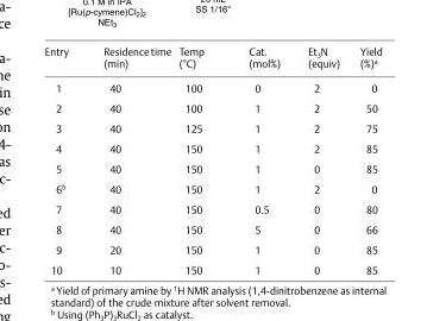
<table><thead><tr><td>Entry</td><td>Residence time (min)</td><td>Temp (°C)</td><td>Cat. (mol%)</td><td>Et<sub>3</sub>N (equiv)</td><td>Yield (%)<sup>a</sup></td></tr></thead><tbody><tr><td>1</td><td>40</td><td>100</td><td>0</td><td>2</td><td>0</td></tr><tr><td>2</td><td>40</td><td>100</td><td>1</td><td>2</td><td>50</td></tr><tr><td>3</td><td>40</td><td>125</td><td>1</td><td>2</td><td>75</td></tr><tr><td>4</td><td>40</td><td>150</td><td>1</td><td>2</td><td>85</td></tr><tr><td>5</td><td>40</td><td>150</td><td>1</td><td>0</td><td>85</td></tr><tr><td>6<sup>b</sup></td><td>40</td><td>150</td><td>1</td><td>2</td><td>0</td></tr><tr><td>7</td><td>40</td><td>150</td><td>0.5</td><td>0</td><td>80</td></tr><tr><td>8</td><td>40</td><td>150</td><td>5</td><td>0</td><td>66</td></tr><tr><td>9</td><td>20</td><td>150</td><td>1</td><td>0</td><td>85</td></tr><tr><td>10</td><td>10</td><td>150</td><td>1</td><td>0</td><td>85</td></tr></tbody></table>